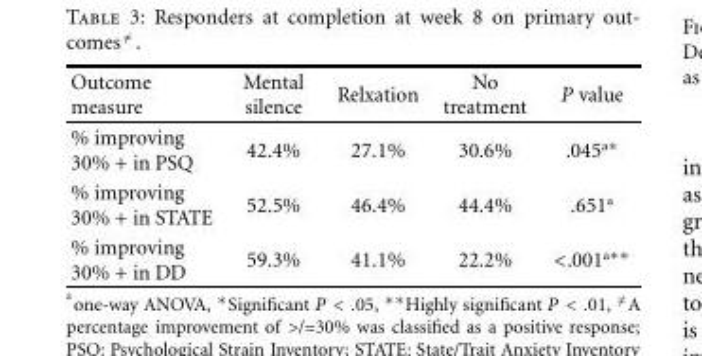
<table><thead><tr><td>Outcome measure</td><td>Mental silence</td><td>Relxation</td><td>No treatment</td><td>P value</td></tr></thead><tbody><tr><td>% improving 30% + in PSQ</td><td>42.4%</td><td>27.1%</td><td>30.6%</td><td>.045<sup>a∗</sup></td></tr><tr><td>% improving 30% + in STATE</td><td>52.5%</td><td>46.4%</td><td>44.4%</td><td>.651<sup>a</sup></td></tr><tr><td>% improving 30% + in DD</td><td>59.3%</td><td>41.1%</td><td>22.2%</td><td>&lt;.001<sup>a∗∗</sup></td></tr></tbody></table>